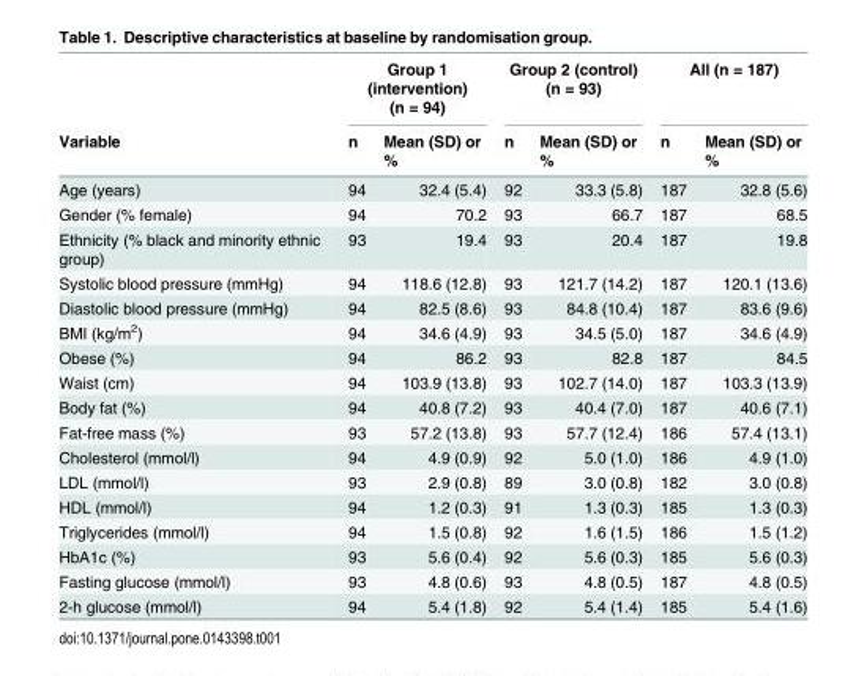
<table><thead><tr><td rowspan="2">Variable</td><td colspan="2">Group 1 (intervention) (n = 94)</td><td colspan="2">Group 2 (control) (n = 93)</td><td colspan="2">All (n = 187)</td></tr><tr><td>n</td><td>Mean (SD) or %</td><td>n</td><td>Mean (SD) or %</td><td>n</td><td>Mean (SD) or %</td></tr></thead><tbody><tr><td>Age (years)</td><td>94</td><td>32.4 (5.4)</td><td>92</td><td>33.3 (5.8)</td><td>187</td><td>32.8 (5.6)</td></tr><tr><td>Gender (% female)</td><td>94</td><td>70.2</td><td>93</td><td>66.7</td><td>187</td><td>68.5</td></tr><tr><td>Ethnicity (% black and minority ethnic group)</td><td>93</td><td>19.4</td><td>93</td><td>20.4</td><td>187</td><td>19.8</td></tr><tr><td>Systolic blood pressure (mmHg)</td><td>94</td><td>118.6 (12.8)</td><td>93</td><td>121.7 (14.2)</td><td>187</td><td>120.1 (13.6)</td></tr><tr><td>Diastolic blood pressure (mmHg)</td><td>94</td><td>82.5 (8.6)</td><td>93</td><td>84.8 (10.4)</td><td>187</td><td>83.6 (9.6)</td></tr><tr><td>BMI (kg/m<sup>2</sup>)</td><td>94</td><td>34.6 (4.9)</td><td>93</td><td>34.5 (5.0)</td><td>187</td><td>34.6 (4.9)</td></tr><tr><td>Obese (%)</td><td>94</td><td>86.2</td><td>93</td><td>82.8</td><td>187</td><td>84.5</td></tr><tr><td>Waist (cm)</td><td>94</td><td>103.9 (13.8)</td><td>93</td><td>102.7 (14.0)</td><td>187</td><td>103.3 (13.9)</td></tr><tr><td>Body fat (%)</td><td>94</td><td>40.8 (7.2)</td><td>93</td><td>40.4 (7.0)</td><td>187</td><td>40.6 (7.1)</td></tr><tr><td>Fat-free mass (%)</td><td>93</td><td>57.2 (13.8)</td><td>93</td><td>57.7 (12.4)</td><td>186</td><td>57.4 (13.1)</td></tr><tr><td>Cholesterol (mmol/l)</td><td>94</td><td>4.9 (0.9)</td><td>92</td><td>5.0 (1.0)</td><td>186</td><td>4.9 (1.0)</td></tr><tr><td>LDL (mmol/l)</td><td>93</td><td>2.9 (0.8)</td><td>89</td><td>3.0 (0.8)</td><td>182</td><td>3.0 (0.8)</td></tr><tr><td>HDL (mmol/l)</td><td>94</td><td>1.2 (0.3)</td><td>91</td><td>1.3 (0.3)</td><td>185</td><td>1.3 (0.3)</td></tr><tr><td>Triglycerides (mmol/l)</td><td>94</td><td>1.5 (0.8)</td><td>92</td><td>1.6 (1.5)</td><td>186</td><td>1.5 (1.2)</td></tr><tr><td>HbA1c (%)</td><td>93</td><td>5.6 (0.4)</td><td>92</td><td>5.6 (0.3)</td><td>185</td><td>5.6 (0.3)</td></tr><tr><td>Fasting glucose (mmol/l)</td><td>93</td><td>4.8 (0.6)</td><td>93</td><td>4.8 (0.5)</td><td>187</td><td>4.8 (0.5)</td></tr><tr><td>2-h glucose (mmol/l)</td><td>94</td><td>5.4 (1.8)</td><td>92</td><td>5.4 (1.4)</td><td>185</td><td>5.4 (1.6)</td></tr></tbody></table>